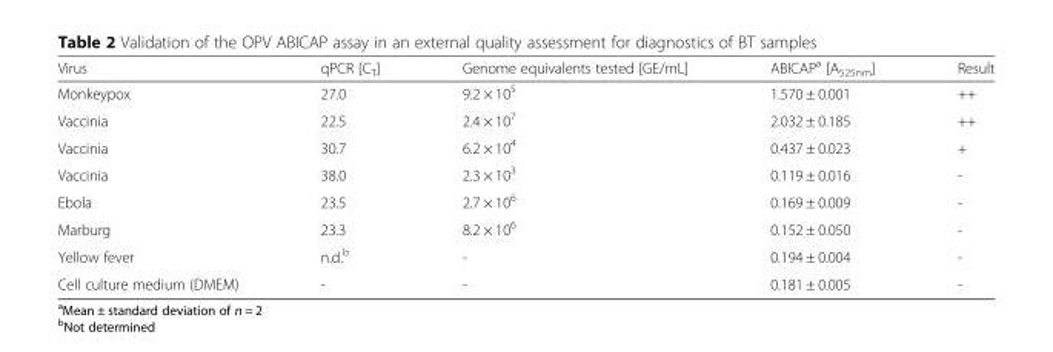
<table><thead><tr><td>Virus</td><td>qPCR [C<sub>T</sub>]</td><td>Genome equivalents tested [GE/mL]</td><td>ABICAP<sup>a</sup> [A<sub>525nm</sub>]</td><td>Result</td></tr></thead><tbody><tr><td>Monkeypox</td><td>27.0</td><td>9.2 × 10<sup>5</sup></td><td>1.570 ± 0.001</td><td>++</td></tr><tr><td>Vaccinia</td><td>22.5</td><td>2.4 × 10<sup>7</sup></td><td>2.032 ± 0.185</td><td>++</td></tr><tr><td>Vaccinia</td><td>30.7</td><td>6.2 × 10<sup>4</sup></td><td>0.437 ± 0.023</td><td>+</td></tr><tr><td>Vaccinia</td><td>38.0</td><td>2.3 × 10<sup>3</sup></td><td>0.119 ± 0.016</td><td>-</td></tr><tr><td>Ebola</td><td>23.5</td><td>2.7 × 10<sup>6</sup></td><td>0.169 ± 0.009</td><td>-</td></tr><tr><td>Marburg</td><td>23.3</td><td>8.2 × 10<sup>6</sup></td><td>0.152 ± 0.050</td><td>-</td></tr><tr><td>Yellow fever</td><td>n.d.<sup>b</sup></td><td>-</td><td>0.194 ± 0.004</td><td>-</td></tr><tr><td>Cell culture medium (DMEM)</td><td>-</td><td>-</td><td>0.181 ± 0.005</td><td>-</td></tr></tbody></table>